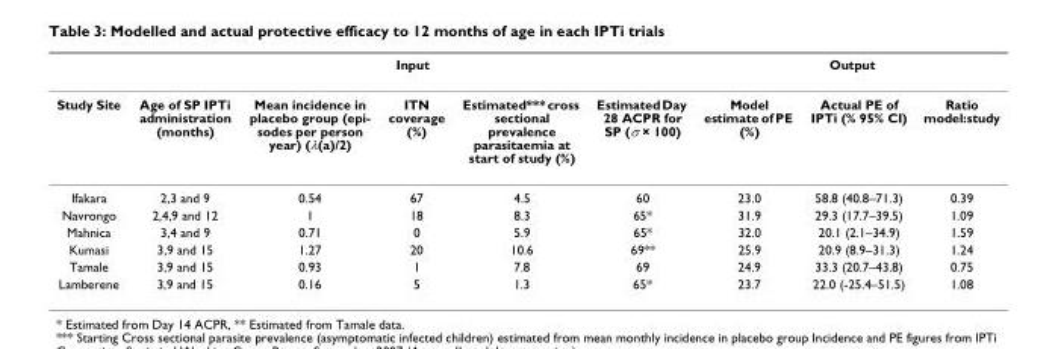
<table><thead><tr><td rowspan="2">Study Site</td><td colspan="5">Input</td><td colspan="3">Output</td></tr><tr><td>Age of SP IPTi administration (months)</td><td>Mean incidence in placebo group (epi- sodes per person year) (λ(a)/2)</td><td>ITN coverage (%)</td><td>Estimated*** cross sectional prevalence parasitaemia at start of study (%)</td><td>Estimated Day 28 ACPR for SP (σ × 100)</td><td>Model estimate of PE (%)</td><td>Actual PE of IPTi (% 95% CI)</td><td>Ratio model:study</td></tr></thead><tbody><tr><td>Ifakara</td><td>2,3 and 9</td><td>0.54</td><td>67</td><td>4.5</td><td>60</td><td>23.0</td><td>58.8 (40.8–71.3)</td><td>0.39</td></tr><tr><td>Navrongo</td><td>2,4,9 and 12</td><td>1</td><td>18</td><td>8.3</td><td>65*</td><td>31.9</td><td>29.3 (17.7–39.5)</td><td>1.09</td></tr><tr><td>Mahnica</td><td>3,4 and 9</td><td>0.71</td><td>0</td><td>5.9</td><td>65*</td><td>32.0</td><td>20.1 (2.1–34.9)</td><td>1.59</td></tr><tr><td>Kumasi</td><td>3,9 and 15</td><td>1.27</td><td>20</td><td>10.6</td><td>69**</td><td>25.9</td><td>20.9 (8.9–31.3)</td><td>1.24</td></tr><tr><td>Tamale</td><td>3,9 and 15</td><td>0.93</td><td>1</td><td>7.8</td><td>69</td><td>24.9</td><td>33.3 (20.7–43.8)</td><td>0.75</td></tr><tr><td>Lamberene</td><td>3,9 and 15</td><td>0.16</td><td>5</td><td>1.3</td><td>65*</td><td>23.7</td><td>22.0 (-25.4–51.5)</td><td>1.08</td></tr></tbody></table>